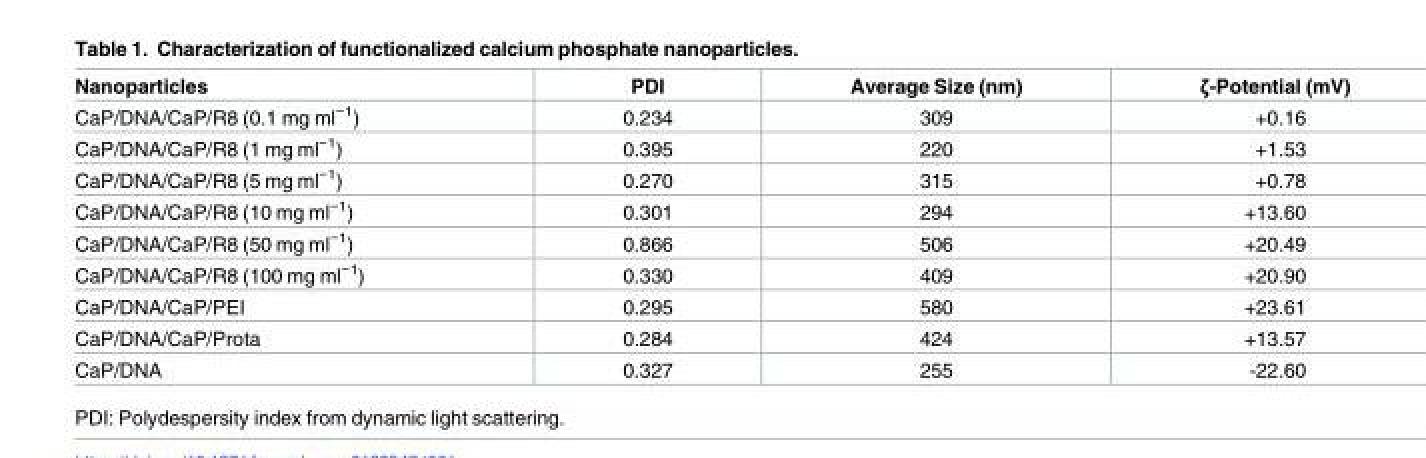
<table><thead><tr><td>Nanoparticles</td><td>PDI</td><td>Average Size (nm)</td><td>ζ-Potential (mV)</td></tr></thead><tbody><tr><td>CaP/DNA/CaP/R8 (0.1 mg ml<sup>−1</sup>)</td><td>0.234</td><td>309</td><td>+0.16</td></tr><tr><td>CaP/DNA/CaP/R8 (1 mg ml<sup>−1</sup>)</td><td>0.395</td><td>220</td><td>+1.53</td></tr><tr><td>CaP/DNA/CaP/R8 (5 mg ml<sup>−1</sup>)</td><td>0.270</td><td>315</td><td>+0.78</td></tr><tr><td>CaP/DNA/CaP/R8 (10 mg ml<sup>−1</sup>)</td><td>0.301</td><td>294</td><td>+13.60</td></tr><tr><td>CaP/DNA/CaP/R8 (50 mg ml<sup>−1</sup>)</td><td>0.866</td><td>506</td><td>+20.49</td></tr><tr><td>CaP/DNA/CaP/R8 (100 mg ml<sup>−1</sup>)</td><td>0.330</td><td>409</td><td>+20.90</td></tr><tr><td>CaP/DNA/CaP/PEI</td><td>0.295</td><td>580</td><td>+23.61</td></tr><tr><td>CaP/DNA/CaP/Prota</td><td>0.284</td><td>424</td><td>+13.57</td></tr><tr><td>CaP/DNA</td><td>0.327</td><td>255</td><td>-22.60</td></tr></tbody></table>